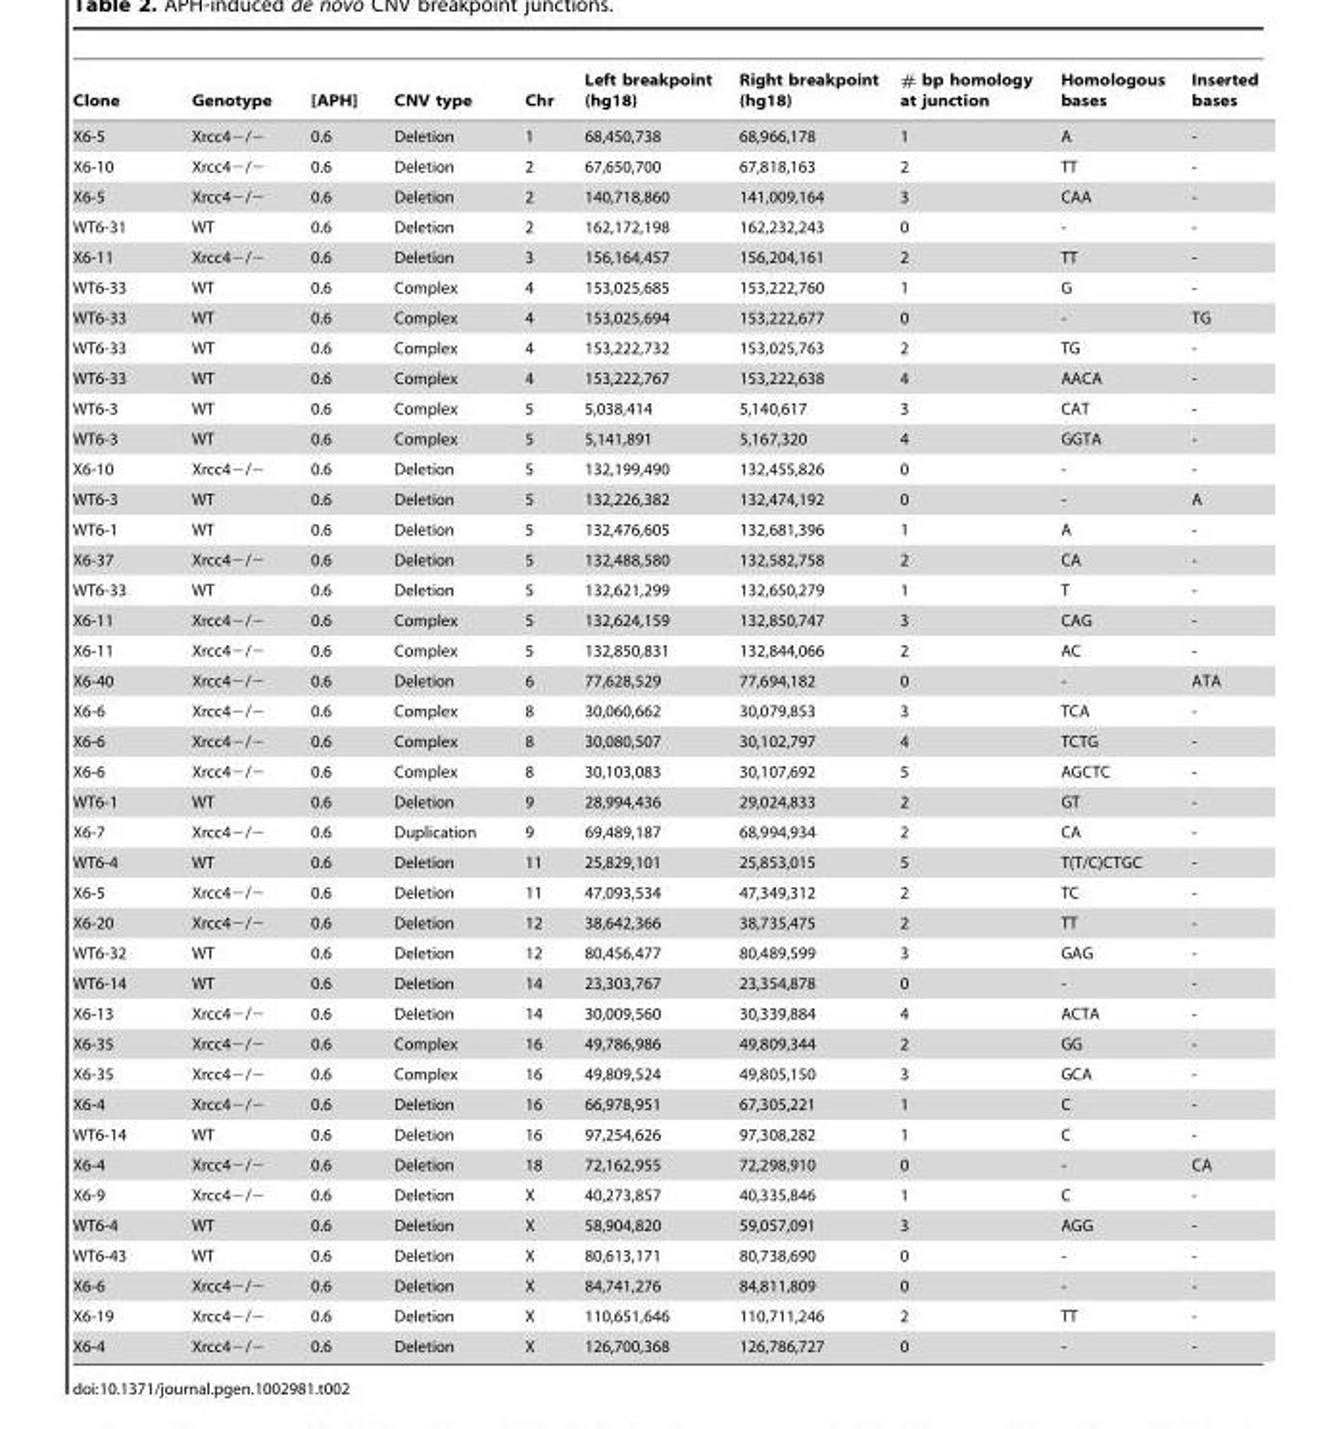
<table><thead><tr><td>Clone</td><td>Genotype</td><td>[APH]</td><td>CNV type</td><td>Chr</td><td>Left breakpoint (hg18)</td><td>Right breakpoint (hg18)</td><td># bp homology at junction</td><td>Homologous bases</td><td>Inserted bases</td></tr></thead><tbody><tr><td>X6-5</td><td>Xrcc4−/−</td><td>0.6</td><td>Deletion</td><td>1</td><td>68,450,738</td><td>68,966,178</td><td>1</td><td>A</td><td>-</td></tr><tr><td>X6-10</td><td>Xrcc4−/−</td><td>0.6</td><td>Deletion</td><td>2</td><td>67,650,700</td><td>67,818,163</td><td>2</td><td>TT</td><td>-</td></tr><tr><td>X6-5</td><td>Xrcc4−/−</td><td>0.6</td><td>Deletion</td><td>2</td><td>140,718,860</td><td>141,009,164</td><td>3</td><td>CAA</td><td>-</td></tr><tr><td>WT6-31</td><td>WT</td><td>0.6</td><td>Deletion</td><td>2</td><td>162,172,198</td><td>162,232,243</td><td>0</td><td>-</td><td>-</td></tr><tr><td>X6-11</td><td>Xrcc4−/−</td><td>0.6</td><td>Deletion</td><td>3</td><td>156,164,457</td><td>156,204,161</td><td>2</td><td>TT</td><td>-</td></tr><tr><td>WT6-33</td><td>WT</td><td>0.6</td><td>Complex</td><td>4</td><td>153,025,685</td><td>153,222,760</td><td>1</td><td>G</td><td>-</td></tr><tr><td>WT6-33</td><td>WT</td><td>0.6</td><td>Complex</td><td>4</td><td>153,025,694</td><td>153,222,677</td><td>0</td><td>-</td><td>TG</td></tr><tr><td>WT6-33</td><td>WT</td><td>0.6</td><td>Complex</td><td>4</td><td>153,222,732</td><td>153,025,763</td><td>2</td><td>TG</td><td>-</td></tr><tr><td>WT6-33</td><td>WT</td><td>0.6</td><td>Complex</td><td>4</td><td>153,222,767</td><td>153,222,638</td><td>4</td><td>AACA</td><td>-</td></tr><tr><td>WT6-3</td><td>WT</td><td>0.6</td><td>Complex</td><td>5</td><td>5,038,414</td><td>5,140,617</td><td>3</td><td>CAT</td><td>-</td></tr><tr><td>WT6-3</td><td>WT</td><td>0.6</td><td>Complex</td><td>5</td><td>5,141,891</td><td>5,167,320</td><td>4</td><td>GGTA</td><td>-</td></tr><tr><td>X6-10</td><td>Xrcc4−/−</td><td>0.6</td><td>Deletion</td><td>5</td><td>132,199,490</td><td>132,455,826</td><td>0</td><td>-</td><td>-</td></tr><tr><td>WT6-3</td><td>WT</td><td>0.6</td><td>Deletion</td><td>5</td><td>132,226,382</td><td>132,474,192</td><td>0</td><td>-</td><td>A</td></tr><tr><td>WT6-1</td><td>WT</td><td>0.6</td><td>Deletion</td><td>5</td><td>132,476,605</td><td>132,681,396</td><td>1</td><td>A</td><td>-</td></tr><tr><td>X6-37</td><td>Xrcc4−/−</td><td>0.6</td><td>Deletion</td><td>5</td><td>132,488,580</td><td>132,582,758</td><td>2</td><td>CA</td><td>-</td></tr><tr><td>WT6-33</td><td>WT</td><td>0.6</td><td>Deletion</td><td>5</td><td>132,621,299</td><td>132,650,279</td><td>1</td><td>T</td><td>-</td></tr><tr><td>X6-11</td><td>Xrcc4−/−</td><td>0.6</td><td>Complex</td><td>5</td><td>132,624,159</td><td>132,850,747</td><td>3</td><td>CAG</td><td>-</td></tr><tr><td>X6-11</td><td>Xrcc4−/−</td><td>0.6</td><td>Complex</td><td>5</td><td>132,850,831</td><td>132,844,066</td><td>2</td><td>AC</td><td>-</td></tr><tr><td>X6-40</td><td>Xrcc4−/−</td><td>0.6</td><td>Deletion</td><td>6</td><td>77,628,529</td><td>77,694,182</td><td>0</td><td>-</td><td>ATA</td></tr><tr><td>X6-6</td><td>Xrcc4−/−</td><td>0.6</td><td>Complex</td><td>8</td><td>30,060,662</td><td>30,079,853</td><td>3</td><td>TCA</td><td>-</td></tr><tr><td>X6-6</td><td>Xrcc4−/−</td><td>0.6</td><td>Complex</td><td>8</td><td>30,080,507</td><td>30,102,797</td><td>4</td><td>TCTG</td><td>-</td></tr><tr><td>X6-6</td><td>Xrcc4−/−</td><td>0.6</td><td>Complex</td><td>8</td><td>30,103,083</td><td>30,107,692</td><td>5</td><td>AGCTC</td><td>-</td></tr><tr><td>WT6-1</td><td>WT</td><td>0.6</td><td>Deletion</td><td>9</td><td>28,994,436</td><td>29,024,833</td><td>2</td><td>GT</td><td>-</td></tr><tr><td>X6-7</td><td>Xrcc4−/−</td><td>0.6</td><td>Duplication</td><td>9</td><td>69,489,187</td><td>68,994,934</td><td>2</td><td>CA</td><td>-</td></tr><tr><td>WT6-4</td><td>WT</td><td>0.6</td><td>Deletion</td><td>11</td><td>25,829,101</td><td>25,853,015</td><td>5</td><td>T(T/C)CTGC</td><td>-</td></tr><tr><td>X6-5</td><td>Xrcc4−/−</td><td>0.6</td><td>Deletion</td><td>11</td><td>47,093,534</td><td>47,349,312</td><td>2</td><td>TC</td><td>-</td></tr><tr><td>X6-20</td><td>Xrcc4−/−</td><td>0.6</td><td>Deletion</td><td>12</td><td>38,642,366</td><td>38,735,475</td><td>2</td><td>TT</td><td>-</td></tr><tr><td>WT6-32</td><td>WT</td><td>0.6</td><td>Deletion</td><td>12</td><td>80,456,477</td><td>80,489,599</td><td>3</td><td>GAG</td><td>-</td></tr><tr><td>WT6-14</td><td>WT</td><td>0.6</td><td>Deletion</td><td>14</td><td>23,303,767</td><td>23,354,878</td><td>0</td><td>-</td><td>-</td></tr><tr><td>X6-13</td><td>Xrcc4−/−</td><td>0.6</td><td>Deletion</td><td>14</td><td>30,009,560</td><td>30,339,884</td><td>4</td><td>ACTA</td><td>-</td></tr><tr><td>X6-35</td><td>Xrcc4−/−</td><td>0.6</td><td>Complex</td><td>16</td><td>49,786,986</td><td>49,809,344</td><td>2</td><td>GG</td><td>-</td></tr><tr><td>X6-35</td><td>Xrcc4−/−</td><td>0.6</td><td>Complex</td><td>16</td><td>49,809,524</td><td>49,805,150</td><td>3</td><td>GCA</td><td>-</td></tr><tr><td>X6-4</td><td>Xrcc4−/−</td><td>0.6</td><td>Deletion</td><td>16</td><td>66,978,951</td><td>67,305,221</td><td>1</td><td>C</td><td>-</td></tr><tr><td>WT6-14</td><td>WT</td><td>0.6</td><td>Deletion</td><td>16</td><td>97,254,626</td><td>97,308,282</td><td>1</td><td>C</td><td>-</td></tr><tr><td>X6-4</td><td>Xrcc4−/−</td><td>0.6</td><td>Deletion</td><td>18</td><td>72,162,955</td><td>72,298,910</td><td>0</td><td>-</td><td>CA</td></tr><tr><td>X6-9</td><td>Xrcc4−/−</td><td>0.6</td><td>Deletion</td><td>X</td><td>40,273,857</td><td>40,335,846</td><td>1</td><td>C</td><td>-</td></tr><tr><td>WT6-4</td><td>WT</td><td>0.6</td><td>Deletion</td><td>X</td><td>58,904,820</td><td>59,057,091</td><td>3</td><td>AGG</td><td>-</td></tr><tr><td>WT6-43</td><td>WT</td><td>0.6</td><td>Deletion</td><td>X</td><td>80,613,171</td><td>80,738,690</td><td>0</td><td>-</td><td>-</td></tr><tr><td>X6-6</td><td>Xrcc4−/−</td><td>0.6</td><td>Deletion</td><td>X</td><td>84,741,276</td><td>84,811,809</td><td>0</td><td>-</td><td>-</td></tr><tr><td>X6-19</td><td>Xrcc4−/−</td><td>0.6</td><td>Deletion</td><td>X</td><td>110,651,646</td><td>110,711,246</td><td>2</td><td>TT</td><td>-</td></tr><tr><td>X6-4</td><td>Xrcc4−/−</td><td>0.6</td><td>Deletion</td><td>X</td><td>126,700,368</td><td>126,786,727</td><td>0</td><td>-</td><td>-</td></tr></tbody></table>